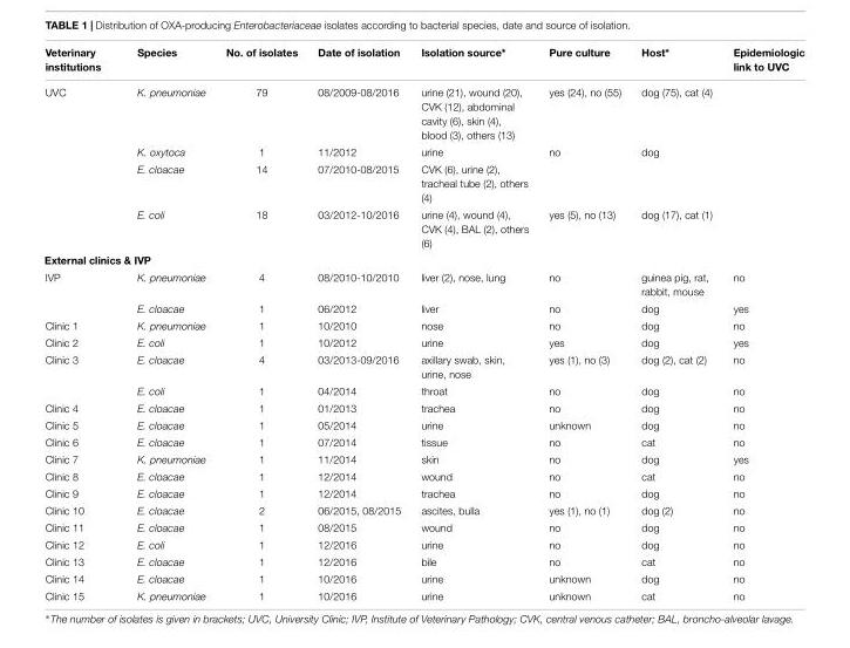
<table><thead><tr><td>Veterinary institutions</td><td>Species</td><td>No. of isolates</td><td>Date of isolation</td><td>Isolation source∗</td><td>Pure culture</td><td>Host∗</td><td>Epidemiologic link to UVC</td></tr></thead><tbody><tr><td rowspan="4">UVC</td><td>K. pneumoniae</td><td>79</td><td>08/2009-08/2016</td><td>urine (21), wound (20), CVK (12), abdominal cavity (6), skin (4), blood (3), others (13)</td><td>yes (24), no (55)</td><td>dog (75), cat (4)</td><td></td></tr><tr><td>K. oxytoca</td><td>1</td><td>11/2012</td><td>urine</td><td>no</td><td>dog</td><td></td></tr><tr><td>E. cloacae</td><td>14</td><td>07/2010-08/2015</td><td>CVK (6), urine (2), tracheal tube (2), others (4)</td><td></td><td></td><td></td></tr><tr><td>E. coli</td><td>18</td><td>03/2012-10/2016</td><td>urine (4), wound (4), CVK (4), BAL (2), others (6)</td><td>yes (5), no (13)</td><td>dog (17), cat (1)</td><td></td></tr><tr><td colspan="8">External clinics &amp; IVP</td></tr><tr><td rowspan="2">IVP</td><td>K. pneumoniae</td><td>4</td><td>08/2010-10/2010</td><td>liver (2), nose, lung</td><td>no</td><td>guinea pig, rat, rabbit, mouse</td><td>no</td></tr><tr><td>E. cloacae</td><td>1</td><td>06/2012</td><td>liver</td><td>no</td><td>dog</td><td>yes</td></tr><tr><td>Clinic 1</td><td>K. pneumoniae</td><td>1</td><td>10/2010</td><td>nose</td><td>no</td><td>dog</td><td>no</td></tr><tr><td>Clinic 2</td><td>E. coli</td><td>1</td><td>10/2012</td><td>urine</td><td>yes</td><td>dog</td><td>yes</td></tr><tr><td rowspan="2">Clinic 3</td><td>E. cloacae</td><td>4</td><td>03/2013-09/2016</td><td>axillary swab, skin, urine, nose</td><td>yes (1), no (3)</td><td>dog (2), cat (2)</td><td>no</td></tr><tr><td>E. coli</td><td>1</td><td>04/2014</td><td>throat</td><td>no</td><td>dog</td><td>no</td></tr><tr><td>Clinic 4</td><td>E. cloacae</td><td>1</td><td>01/2013</td><td>trachea</td><td>no</td><td>dog</td><td>no</td></tr><tr><td>Clinic 5</td><td>E. cloacae</td><td>1</td><td>05/2014</td><td>urine</td><td>unknown</td><td>dog</td><td>no</td></tr><tr><td>Clinic 6</td><td>E. cloacae</td><td>1</td><td>07/2014</td><td>tissue</td><td>no</td><td>cat</td><td>no</td></tr><tr><td>Clinic 7</td><td>K. pneumoniae</td><td>1</td><td>11/2014</td><td>skin</td><td>no</td><td>dog</td><td>yes</td></tr><tr><td>Clinic 8</td><td>E. cloacae</td><td>1</td><td>12/2014</td><td>wound</td><td>no</td><td>cat</td><td>no</td></tr><tr><td>Clinic 9</td><td>E. cloacae</td><td>1</td><td>12/2014</td><td>trachea</td><td>no</td><td>dog</td><td>no</td></tr><tr><td>Clinic 10</td><td>E. cloacae</td><td>2</td><td>06/2015, 08/2015</td><td>ascites, bulla</td><td>yes (1), no (1)</td><td>dog (2)</td><td>no</td></tr><tr><td>Clinic 11</td><td>E. cloacae</td><td>1</td><td>08/2015</td><td>wound</td><td>no</td><td>dog</td><td>no</td></tr><tr><td>Clinic 12</td><td>E. coli</td><td>1</td><td>12/2016</td><td>urine</td><td>no</td><td>dog</td><td>no</td></tr><tr><td>Clinic 13</td><td>E. cloacae</td><td>1</td><td>12/2016</td><td>bile</td><td>no</td><td>cat</td><td>no</td></tr><tr><td>Clinic 14</td><td>E. cloacae</td><td>1</td><td>10/2016</td><td>urine</td><td>unknown</td><td>dog</td><td>no</td></tr><tr><td>Clinic 15</td><td>K. pneumoniae</td><td>1</td><td>10/2016</td><td>urine</td><td>unknown</td><td>cat</td><td>no</td></tr></tbody></table>